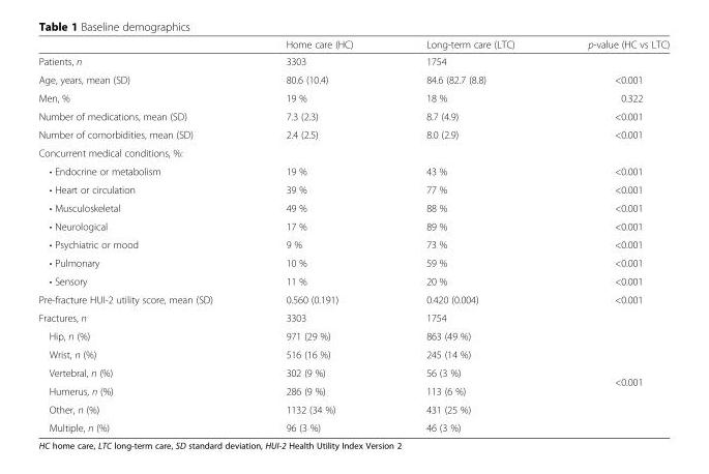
<table><thead><tr><td></td><td>Home care (HC)</td><td>Long-term care (LTC)</td><td>p-value (HC vs LTC)</td></tr></thead><tbody><tr><td>Patients, n</td><td>3303</td><td>1754</td><td></td></tr><tr><td>Age, years, mean (SD)</td><td>80.6 (10.4)</td><td>84.6 (82.7 (8.8)</td><td>&lt;0.001</td></tr><tr><td>Men, %</td><td>19 %</td><td>18 %</td><td>0.322</td></tr><tr><td>Number of medications, mean (SD)</td><td>7.3 (2.3)</td><td>8.7 (4.9)</td><td>&lt;0.001</td></tr><tr><td>Number of comorbidities, mean (SD)</td><td>2.4 (2.5)</td><td>8.0 (2.9)</td><td>&lt;0.001</td></tr><tr><td colspan="4">Concurrent medical conditions, %:</td></tr><tr><td>• Endocrine or metabolism</td><td>19 %</td><td>43 %</td><td>&lt;0.001</td></tr><tr><td>• Heart or circulation</td><td>39 %</td><td>77 %</td><td>&lt;0.001</td></tr><tr><td>• Musculoskeletal</td><td>49 %</td><td>88 %</td><td>&lt;0.001</td></tr><tr><td>• Neurological</td><td>17 %</td><td>89 %</td><td>&lt;0.001</td></tr><tr><td>• Psychiatric or mood</td><td>9 %</td><td>73 %</td><td>&lt;0.001</td></tr><tr><td>• Pulmonary</td><td>10 %</td><td>59 %</td><td>&lt;0.001</td></tr><tr><td>• Sensory</td><td>11 %</td><td>20 %</td><td>&lt;0.001</td></tr><tr><td>Pre-fracture HUI-2 utility score, mean (SD)</td><td>0.560 (0.191)</td><td>0.420 (0.004)</td><td>&lt;0.001</td></tr><tr><td>Fractures, n</td><td>3303</td><td>1754</td><td></td></tr><tr><td>Hip, n (%)</td><td>971 (29 %)</td><td>863 (49 %)</td><td rowspan="6">&lt;0.001</td></tr><tr><td>Wrist, n (%)</td><td>516 (16 %)</td><td>245 (14 %)</td></tr><tr><td>Vertebral, n (%)</td><td>302 (9 %)</td><td>56 (3 %)</td></tr><tr><td>Humerus, n (%)</td><td>286 (9 %)</td><td>113 (6 %)</td></tr><tr><td>Other, n (%)</td><td>1132 (34 %)</td><td>431 (25 %)</td></tr><tr><td>Multiple, n (%)</td><td>96 (3 %)</td><td>46 (3 %)</td></tr></tbody></table>